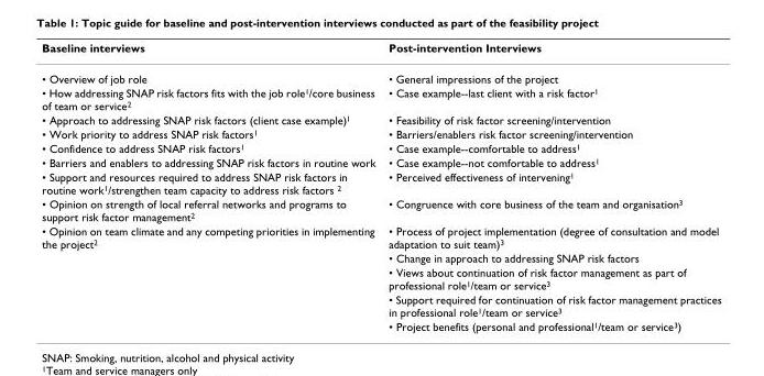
<table><thead><tr><td>Baseline interviews</td><td>Post-intervention Interviews</td></tr></thead><tbody><tr><td>• Overview of job role</td><td>• General impressions of the project</td></tr><tr><td>• How addressing SNAP risk factors fits with the job role<sup>1</sup>/core business of team or service<sup>2</sup></td><td>• Case example--last client with a risk factor<sup>1</sup></td></tr><tr><td>• Approach to addressing SNAP risk factors (client case example)<sup>1</sup></td><td>• Feasibility of risk factor screening/intervention</td></tr><tr><td>• Work priority to address SNAP risk factors<sup>1</sup></td><td>• Barriers/enablers risk factor screening/intervention</td></tr><tr><td>• Confidence to address SNAP risk factors<sup>1</sup></td><td>• Case example--comfortable to address<sup>1</sup></td></tr><tr><td>• Barriers and enablers to addressing SNAP risk factors in routine work</td><td>• Case example--not comfortable to address<sup>1</sup></td></tr><tr><td>• Support and resources required to address SNAP risk factors in routine work<sup>1</sup>/strengthen team capacity to address risk factors <sup>2</sup></td><td>• Perceived effectiveness of intervening<sup>1</sup></td></tr><tr><td>• Opinion on strength of local referral networks and programs to support risk factor management<sup>2</sup></td><td>• Congruence with core business of the team and organisation<sup>3</sup></td></tr><tr><td rowspan="5">• Opinion on team climate and any competing priorities in implementing the project<sup>2</sup></td><td>• Process of project implementation (degree of consultation and model adaptation to suit team)<sup>3</sup></td></tr><tr><td>• Change in approach to addressing SNAP risk factors</td></tr><tr><td>• Views about continuation of risk factor management as part of professional role<sup>1</sup>/team or service<sup>3</sup></td></tr><tr><td>• Support required for continuation of risk factor management practices in professional role<sup>1</sup>/team or service<sup>3</sup></td></tr><tr><td>• Project benefits (personal and professional<sup>1</sup>/team or service<sup>3</sup>)</td></tr></tbody></table>